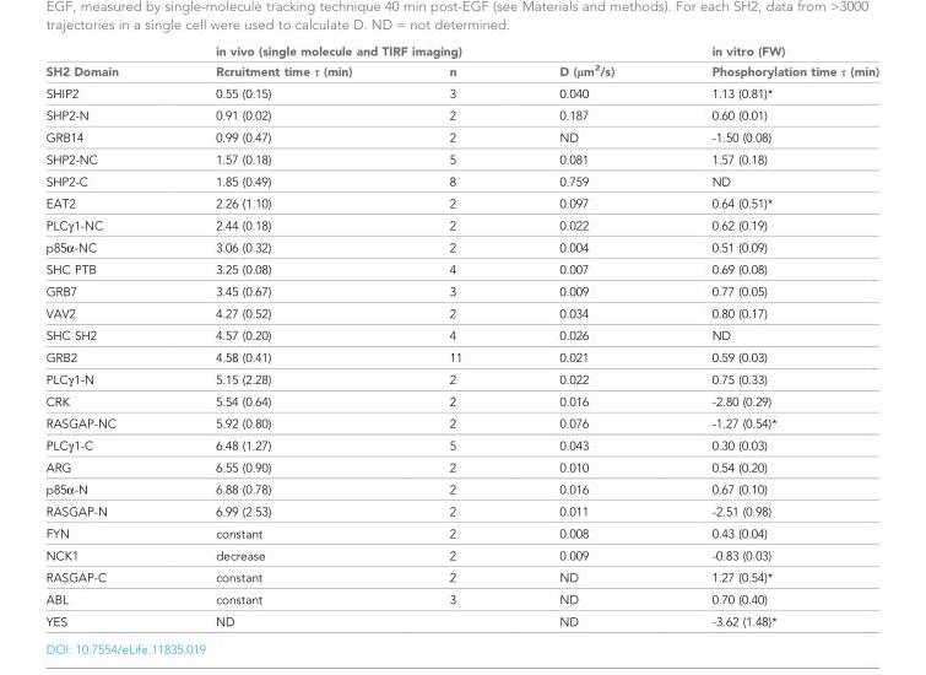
<table><thead><tr><td rowspan="2">SH2 Domain</td><td colspan="3">in vivo (single molecule and TIRF imaging)</td><td rowspan="2">in vitro (FW) Phosphorylation time τ (min)</td></tr><tr><td>Rcruitment time τ (min)</td><td>n</td><td>D (μm<sup>2</sup>/s)</td></tr></thead><tbody><tr><td>SHIP2</td><td>0.55 (0.15)</td><td>3</td><td>0.040</td><td>1.13 (0.81)*</td></tr><tr><td>SHP2-N</td><td>0.91 (0.02)</td><td>2</td><td>0.187</td><td>0.60 (0.01)</td></tr><tr><td>GRB14</td><td>0.99 (0.47)</td><td>2</td><td>ND</td><td>-1.50 (0.08)</td></tr><tr><td>SHP2-NC</td><td>1.57 (0.18)</td><td>5</td><td>0.081</td><td>1.57 (0.18)</td></tr><tr><td>SHP2-C</td><td>1.85 (0.49)</td><td>8</td><td>0.759</td><td>ND</td></tr><tr><td>EAT2</td><td>2.26 (1.10)</td><td>2</td><td>0.097</td><td>0.64 (0.51)*</td></tr><tr><td>PLCγ1-NC</td><td>2.44 (0.18)</td><td>2</td><td>0.022</td><td>0.62 (0.19)</td></tr><tr><td>p85α-NC</td><td>3.06 (0.32)</td><td>2</td><td>0.004</td><td>0.51 (0.09)</td></tr><tr><td>SHC PTB</td><td>3.25 (0.08)</td><td>4</td><td>0.007</td><td>0.69 (0.08)</td></tr><tr><td>GRB7</td><td>3.45 (0.67)</td><td>3</td><td>0.009</td><td>0.77 (0.05)</td></tr><tr><td>VAV2</td><td>4.27 (0.52)</td><td>2</td><td>0.034</td><td>0.80 (0.17)</td></tr><tr><td>SHC SH2</td><td>4.57 (0.20)</td><td>4</td><td>0.026</td><td>ND</td></tr><tr><td>GRB2</td><td>4.58 (0.41)</td><td>11</td><td>0.021</td><td>0.59 (0.03)</td></tr><tr><td>PLCγ1-N</td><td>5.15 (2.28)</td><td>2</td><td>0.022</td><td>0.75 (0.33)</td></tr><tr><td>CRK</td><td>5.54 (0.64)</td><td>2</td><td>0.016</td><td>-2.80 (0.29)</td></tr><tr><td>RASGAP-NC</td><td>5.92 (0.80)</td><td>2</td><td>0.076</td><td>-1.27 (0.54)*</td></tr><tr><td>PLCγ1-C</td><td>6.48 (1.27)</td><td>5</td><td>0.043</td><td>0.30 (0.03)</td></tr><tr><td>ARG</td><td>6.55 (0.90)</td><td>2</td><td>0.010</td><td>0.54 (0.20)</td></tr><tr><td>p85α-N</td><td>6.88 (0.78)</td><td>2</td><td>0.016</td><td>0.67 (0.10)</td></tr><tr><td>RASGAP-N</td><td>6.99 (2.53)</td><td>2</td><td>0.011</td><td>-2.51 (0.98)</td></tr><tr><td>FYN</td><td>constant</td><td>2</td><td>0.008</td><td>0.43 (0.04)</td></tr><tr><td>NCK1</td><td>decrease</td><td>2</td><td>0.009</td><td>-0.83 (0.03)</td></tr><tr><td>RASGAP-C</td><td>constant</td><td>2</td><td>ND</td><td>1.27 (0.54)*</td></tr><tr><td>ABL</td><td>constant</td><td>3</td><td>ND</td><td>0.70 (0.40)</td></tr><tr><td>YES</td><td>ND</td><td></td><td>ND</td><td>-3.62 (1.48)*</td></tr></tbody></table>